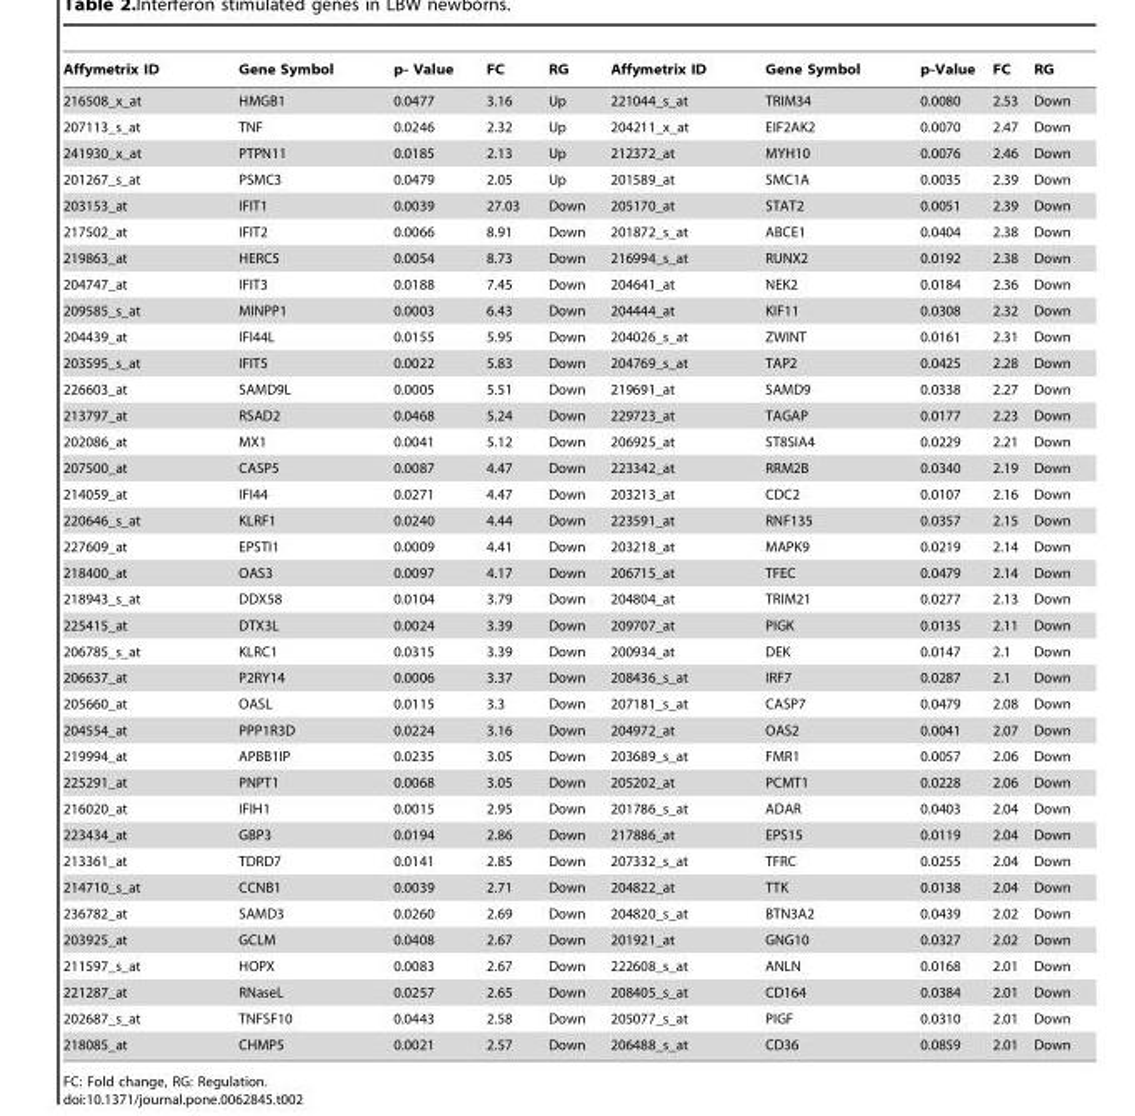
<table><thead><tr><td>Affymetrix ID</td><td>Gene Symbol</td><td>p- Value</td><td>FC</td><td>RG</td><td>Affymetrix ID</td><td>Gene Symbol</td><td>p-Value</td><td>FC</td><td>RG</td></tr></thead><tbody><tr><td>216508_x_at</td><td>HMGB1</td><td>0.0477</td><td>3.16</td><td>Up</td><td>221044_s_at</td><td>TRIM34</td><td>0.0080</td><td>2.53</td><td>Down</td></tr><tr><td>207113_s_at</td><td>TNF</td><td>0.0246</td><td>2.32</td><td>Up</td><td>204211_x_at</td><td>EIF2AK2</td><td>0.0070</td><td>2.47</td><td>Down</td></tr><tr><td>241930_x_at</td><td>PTPN11</td><td>0.0185</td><td>2.13</td><td>Up</td><td>212372_at</td><td>MYH10</td><td>0.0076</td><td>2.46</td><td>Down</td></tr><tr><td>201267_s_at</td><td>PSMC3</td><td>0.0479</td><td>2.05</td><td>Up</td><td>201589_at</td><td>SMC1A</td><td>0.0035</td><td>2.39</td><td>Down</td></tr><tr><td>203153_at</td><td>IFIT1</td><td>0.0039</td><td>27.03</td><td>Down</td><td>205170_at</td><td>STAT2</td><td>0.0051</td><td>2.39</td><td>Down</td></tr><tr><td>217502_at</td><td>IFIT2</td><td>0.0066</td><td>8.91</td><td>Down</td><td>201872_s_at</td><td>ABCE1</td><td>0.0404</td><td>2.38</td><td>Down</td></tr><tr><td>219863_at</td><td>HERC5</td><td>0.0054</td><td>8.73</td><td>Down</td><td>216994_s_at</td><td>RUNX2</td><td>0.0192</td><td>2.38</td><td>Down</td></tr><tr><td>204747_at</td><td>IFIT3</td><td>0.0188</td><td>7.45</td><td>Down</td><td>204641_at</td><td>NEK2</td><td>0.0184</td><td>2.36</td><td>Down</td></tr><tr><td>209585_s_at</td><td>MINPP1</td><td>0.0003</td><td>6.43</td><td>Down</td><td>204444_at</td><td>KIF11</td><td>0.0308</td><td>2.32</td><td>Down</td></tr><tr><td>204439_at</td><td>IFI44L</td><td>0.0155</td><td>5.95</td><td>Down</td><td>204026_s_at</td><td>ZWINT</td><td>0.0161</td><td>2.31</td><td>Down</td></tr><tr><td>203595_s_at</td><td>IFIT5</td><td>0.0022</td><td>5.83</td><td>Down</td><td>204769_s_at</td><td>TAP2</td><td>0.0425</td><td>2.28</td><td>Down</td></tr><tr><td>226603_at</td><td>SAMD9L</td><td>0.0005</td><td>5.51</td><td>Down</td><td>219691_at</td><td>SAMD9</td><td>0.0338</td><td>2.27</td><td>Down</td></tr><tr><td>213797_at</td><td>RSAD2</td><td>0.0468</td><td>5.24</td><td>Down</td><td>229723_at</td><td>TAGAP</td><td>0.0177</td><td>2.23</td><td>Down</td></tr><tr><td>202086_at</td><td>MX1</td><td>0.0041</td><td>5.12</td><td>Down</td><td>206925_at</td><td>ST8SIA4</td><td>0.0229</td><td>2.21</td><td>Down</td></tr><tr><td>207500_at</td><td>CASP5</td><td>0.0087</td><td>4.47</td><td>Down</td><td>223342_at</td><td>RRM2B</td><td>0.0340</td><td>2.19</td><td>Down</td></tr><tr><td>214059_at</td><td>IFI44</td><td>0.0271</td><td>4.47</td><td>Down</td><td>203213_at</td><td>CDC2</td><td>0.0107</td><td>2.16</td><td>Down</td></tr><tr><td>220646_s_at</td><td>KLRF1</td><td>0.0240</td><td>4.44</td><td>Down</td><td>223591_at</td><td>RNF135</td><td>0.0357</td><td>2.15</td><td>Down</td></tr><tr><td>227609_at</td><td>EPSTI1</td><td>0.0009</td><td>4.41</td><td>Down</td><td>203218_at</td><td>MAPK9</td><td>0.0219</td><td>2.14</td><td>Down</td></tr><tr><td>218400_at</td><td>OAS3</td><td>0.0097</td><td>4.17</td><td>Down</td><td>206715_at</td><td>TFEC</td><td>0.0479</td><td>2.14</td><td>Down</td></tr><tr><td>218943_s_at</td><td>DDX58</td><td>0.0104</td><td>3.79</td><td>Down</td><td>204804_at</td><td>TRIM21</td><td>0.0277</td><td>2.13</td><td>Down</td></tr><tr><td>225415_at</td><td>DTX3L</td><td>0.0024</td><td>3.39</td><td>Down</td><td>209707_at</td><td>PIGK</td><td>0.0135</td><td>2.11</td><td>Down</td></tr><tr><td>206785_s_at</td><td>KLRC1</td><td>0.0315</td><td>3.39</td><td>Down</td><td>200934_at</td><td>DEK</td><td>0.0147</td><td>2.1</td><td>Down</td></tr><tr><td>206637_at</td><td>P2RY14</td><td>0.0006</td><td>3.37</td><td>Down</td><td>208436_s_at</td><td>IRF7</td><td>0.0287</td><td>2.1</td><td>Down</td></tr><tr><td>205660_at</td><td>OASL</td><td>0.0115</td><td>3.3</td><td>Down</td><td>207181_s_at</td><td>CASP7</td><td>0.0479</td><td>2.08</td><td>Down</td></tr><tr><td>204554_at</td><td>PPP1R3D</td><td>0.0224</td><td>3.16</td><td>Down</td><td>204972_at</td><td>OAS2</td><td>0.0041</td><td>2.07</td><td>Down</td></tr><tr><td>219994_at</td><td>APBB1IP</td><td>0.0235</td><td>3.05</td><td>Down</td><td>203689_s_at</td><td>FMR1</td><td>0.0057</td><td>2.06</td><td>Down</td></tr><tr><td>225291_at</td><td>PNPT1</td><td>0.0068</td><td>3.05</td><td>Down</td><td>205202_at</td><td>PCMT1</td><td>0.0228</td><td>2.06</td><td>Down</td></tr><tr><td>216020_at</td><td>IFIH1</td><td>0.0015</td><td>2.95</td><td>Down</td><td>201786_s_at</td><td>ADAR</td><td>0.0403</td><td>2.04</td><td>Down</td></tr><tr><td>223434_at</td><td>GBP3</td><td>0.0194</td><td>2.86</td><td>Down</td><td>217886_at</td><td>EPS15</td><td>0.0119</td><td>2.04</td><td>Down</td></tr><tr><td>213361_at</td><td>TDRD7</td><td>0.0141</td><td>2.85</td><td>Down</td><td>207332_s_at</td><td>TFRC</td><td>0.0255</td><td>2.04</td><td>Down</td></tr><tr><td>214710_s_at</td><td>CCNB1</td><td>0.0039</td><td>2.71</td><td>Down</td><td>204822_at</td><td>TTK</td><td>0.0138</td><td>2.04</td><td>Down</td></tr><tr><td>236782_at</td><td>SAMD3</td><td>0.0260</td><td>2.69</td><td>Down</td><td>204820_s_at</td><td>BTN3A2</td><td>0.0439</td><td>2.02</td><td>Down</td></tr><tr><td>203925_at</td><td>GCLM</td><td>0.0408</td><td>2.67</td><td>Down</td><td>201921_at</td><td>GNG10</td><td>0.0327</td><td>2.02</td><td>Down</td></tr><tr><td>211597_s_at</td><td>HOPX</td><td>0.0083</td><td>2.67</td><td>Down</td><td>222608_s_at</td><td>ANLN</td><td>0.0168</td><td>2.01</td><td>Down</td></tr><tr><td>221287_at</td><td>RNaseL</td><td>0.0257</td><td>2.65</td><td>Down</td><td>208405_s_at</td><td>CD164</td><td>0.0384</td><td>2.01</td><td>Down</td></tr><tr><td>202687_s_at</td><td>TNFSF10</td><td>0.0443</td><td>2.58</td><td>Down</td><td>205077_s_at</td><td>PIGF</td><td>0.0310</td><td>2.01</td><td>Down</td></tr><tr><td>218085_at</td><td>CHMP5</td><td>0.0021</td><td>2.57</td><td>Down</td><td>206488_s_at</td><td>CD36</td><td>0.0859</td><td>2.01</td><td>Down</td></tr></tbody></table>